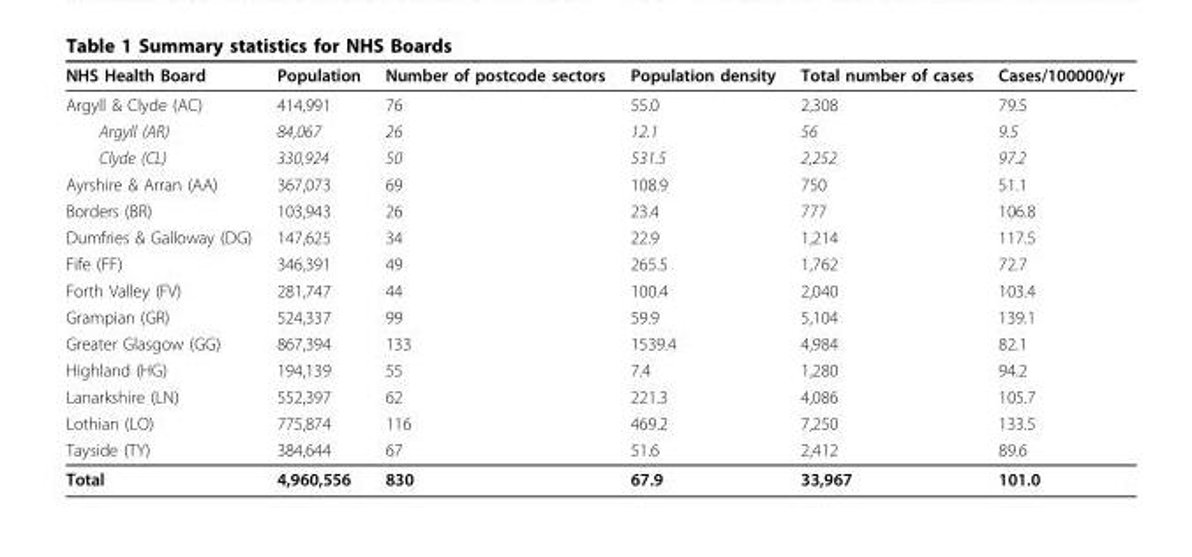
<table><thead><tr><td>NHS Health Board</td><td>Population</td><td>Number of postcode sectors</td><td>Population density</td><td>Total number of cases</td><td>Cases/100000/yr</td></tr></thead><tbody><tr><td>Argyll &amp; Clyde (AC)</td><td>414,991</td><td>76</td><td>55.0</td><td>2,308</td><td>79.5</td></tr><tr><td>Argyll (AR)</td><td>84,067</td><td>26</td><td>12.1</td><td>56</td><td>9.5</td></tr><tr><td>Clyde (CL)</td><td>330,924</td><td>50</td><td>531.5</td><td>2,252</td><td>97.2</td></tr><tr><td>Ayrshire &amp; Arran (AA)</td><td>367,073</td><td>69</td><td>108.9</td><td>750</td><td>51.1</td></tr><tr><td>Borders (BR)</td><td>103,943</td><td>26</td><td>23.4</td><td>777</td><td>106.8</td></tr><tr><td>Dumfries &amp; Galloway (DG)</td><td>147,625</td><td>34</td><td>22.9</td><td>1,214</td><td>117.5</td></tr><tr><td>Fife (FF)</td><td>346,391</td><td>49</td><td>265.5</td><td>1,762</td><td>72.7</td></tr><tr><td>Forth Valley (FV)</td><td>281,747</td><td>44</td><td>100.4</td><td>2,040</td><td>103.4</td></tr><tr><td>Grampian (GR)</td><td>524,337</td><td>99</td><td>59.9</td><td>5,104</td><td>139.1</td></tr><tr><td>Greater Glasgow (GG)</td><td>867,394</td><td>133</td><td>1539.4</td><td>4,984</td><td>82.1</td></tr><tr><td>Highland (HG)</td><td>194,139</td><td>55</td><td>7.4</td><td>1,280</td><td>94.2</td></tr><tr><td>Lanarkshire (LN)</td><td>552,397</td><td>62</td><td>221.3</td><td>4,086</td><td>105.7</td></tr><tr><td>Lothian (LO)</td><td>775,874</td><td>116</td><td>469.2</td><td>7,250</td><td>133.5</td></tr><tr><td>Tayside (TY)</td><td>384,644</td><td>67</td><td>51.6</td><td>2,412</td><td>89.6</td></tr><tr><td>Total</td><td>4,960,556</td><td>830</td><td>67.9</td><td>33,967</td><td>101.0</td></tr></tbody></table>